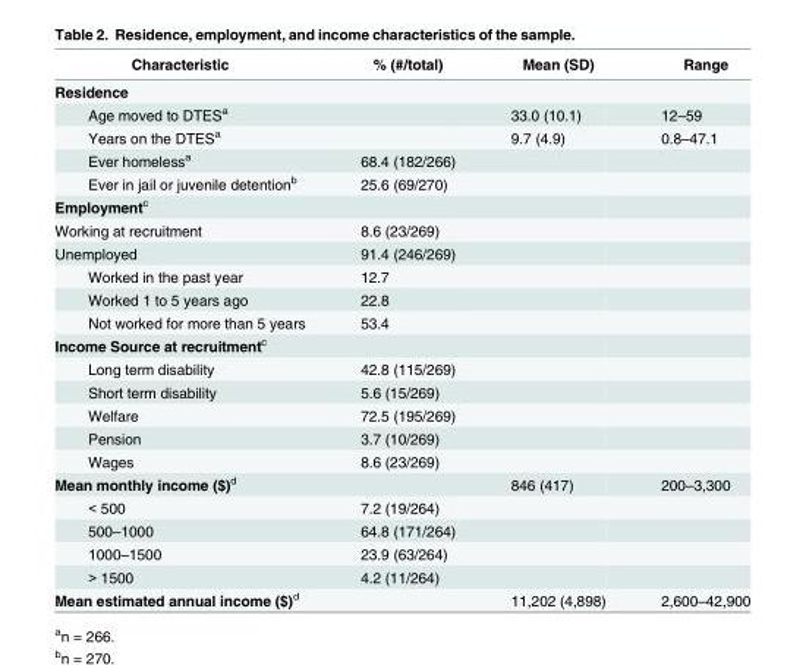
<table><thead><tr><td>Characteristic</td><td>% (#/total)</td><td>Mean (SD)</td><td>Range</td></tr></thead><tbody><tr><td colspan="4">Residence</td></tr><tr><td>Age moved to DTES<sup>a</sup></td><td></td><td>33.0 (10.1)</td><td>12–59</td></tr><tr><td>Years on the DTES<sup>a</sup></td><td></td><td>9.7 (4.9)</td><td>0.8–47.1</td></tr><tr><td>Ever homeless<sup>a</sup></td><td>68.4 (182/266)</td><td></td><td></td></tr><tr><td>Ever in jail or juvenile detention<sup>b</sup></td><td>25.6 (69/270)</td><td></td><td></td></tr><tr><td colspan="4">Employment<sup>c</sup></td></tr><tr><td>Working at recruitment</td><td>8.6 (23/269)</td><td></td><td></td></tr><tr><td>Unemployed</td><td>91.4 (246/269)</td><td></td><td></td></tr><tr><td>Worked in the past year</td><td>12.7</td><td></td><td></td></tr><tr><td>Worked 1 to 5 years ago</td><td>22.8</td><td></td><td></td></tr><tr><td>Not worked for more than 5 years</td><td>53.4</td><td></td><td></td></tr><tr><td colspan="4">Income Source at recruitment<sup>c</sup></td></tr><tr><td>Long term disability</td><td>42.8 (115/269)</td><td></td><td></td></tr><tr><td>Short term disability</td><td>5.6 (15/269)</td><td></td><td></td></tr><tr><td>Welfare</td><td>72.5 (195/269)</td><td></td><td></td></tr><tr><td>Pension</td><td>3.7 (10/269)</td><td></td><td></td></tr><tr><td>Wages</td><td>8.6 (23/269)</td><td></td><td></td></tr><tr><td>Mean monthly income ($)<sup>d</sup></td><td></td><td>846 (417)</td><td>200–3,300</td></tr><tr><td>&lt; 500</td><td>7.2 (19/264)</td><td></td><td></td></tr><tr><td>500–1000</td><td>64.8 (171/264)</td><td></td><td></td></tr><tr><td>1000–1500</td><td>23.9 (63/264)</td><td></td><td></td></tr><tr><td>&gt; 1500</td><td>4.2 (11/264)</td><td></td><td></td></tr><tr><td>Mean estimated annual income ($)<sup>d</sup></td><td></td><td>11,202 (4,898)</td><td>2,600–42,900</td></tr></tbody></table>